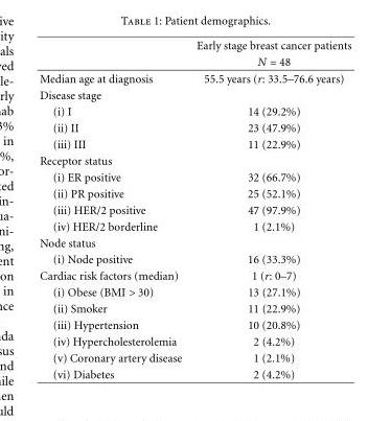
<table><thead><tr><td rowspan="2"></td><td rowspan="2">Early stage breast cancer patients N = 48</td></tr><tr></tr></thead><tbody><tr><td>Median age at diagnosis</td><td>55.5 years (r: 33.5–76.6 years)</td></tr><tr><td colspan="2">Disease stage</td></tr><tr><td>(i) I</td><td>14 (29.2%)</td></tr><tr><td>(ii) II</td><td>23 (47.9%)</td></tr><tr><td>(iii) III</td><td>11 (22.9%)</td></tr><tr><td colspan="2">Receptor status</td></tr><tr><td>(i) ER positive</td><td>32 (66.7%)</td></tr><tr><td>(ii) PR positive</td><td>25 (52.1%)</td></tr><tr><td>(iii) HER/2 positive</td><td>47 (97.9%)</td></tr><tr><td>(iv) HER/2 borderline</td><td>1 (2.1%)</td></tr><tr><td colspan="2">Node status</td></tr><tr><td>(i) Node positive</td><td>16 (33.3%)</td></tr><tr><td>Cardiac risk factors (median)</td><td>1 (r: 0–7)</td></tr><tr><td>(i) Obese (BMI &gt; 30)</td><td>13 (27.1%)</td></tr><tr><td>(ii) Smoker</td><td>11 (22.9%)</td></tr><tr><td>(iii) Hypertension</td><td>10 (20.8%)</td></tr><tr><td>(iv) Hypercholesterolemia</td><td>2 (4.2%)</td></tr><tr><td>(v) Coronary artery disease</td><td>1 (2.1%)</td></tr><tr><td>(vi) Diabetes</td><td>2 (4.2%)</td></tr></tbody></table>